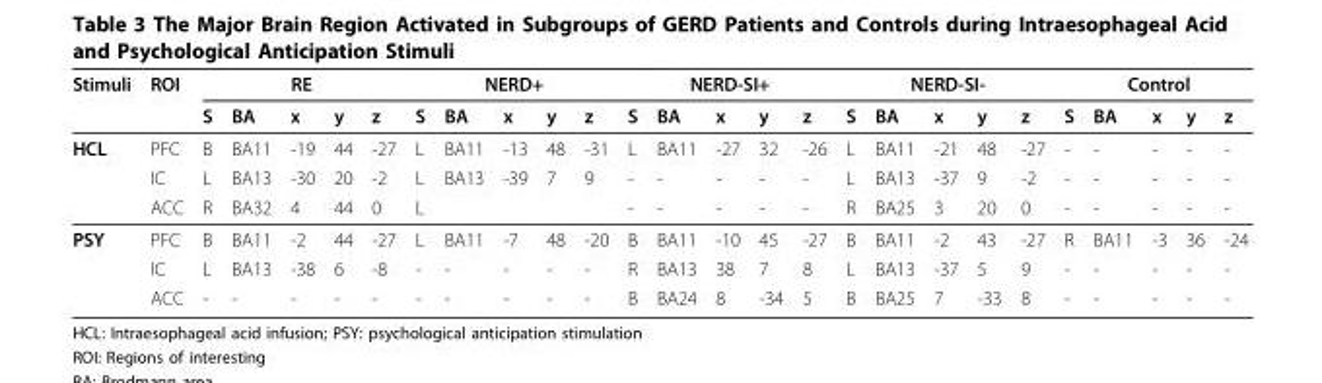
<table><thead><tr><td rowspan="2">Stimuli</td><td rowspan="2">ROI</td><td colspan="5">RE</td><td colspan="5">NERD+</td><td colspan="5">NERD-SI+</td><td colspan="5">NERD-SI-</td><td colspan="5">Control</td></tr><tr><td>S</td><td>BA</td><td>x</td><td>y</td><td>z</td><td>S</td><td>BA</td><td>x</td><td>y</td><td>z</td><td>S</td><td>BA</td><td>x</td><td>y</td><td>z</td><td>S</td><td>BA</td><td>x</td><td>y</td><td>z</td><td>S</td><td>BA</td><td>x</td><td>y</td><td>z</td></tr></thead><tbody><tr><td rowspan="3">HCL</td><td>PFC</td><td>B</td><td>BA11</td><td>-19</td><td>44</td><td>-27</td><td>L</td><td>BA11</td><td>-13</td><td>48</td><td>-31</td><td>L</td><td>BA11</td><td>-27</td><td>32</td><td>-26</td><td>L</td><td>BA11</td><td>-21</td><td>48</td><td>-27</td><td>-</td><td>-</td><td>-</td><td>-</td><td>-</td></tr><tr><td>IC</td><td>L</td><td>BA13</td><td>-30</td><td>20</td><td>-2</td><td>L</td><td>BA13</td><td>-39</td><td>7</td><td>9</td><td>-</td><td>-</td><td>-</td><td>-</td><td>-</td><td>L</td><td>BA13</td><td>-37</td><td>9</td><td>-2</td><td>-</td><td>-</td><td>-</td><td>-</td><td>-</td></tr><tr><td>ACC</td><td>R</td><td>BA32</td><td>4</td><td>44</td><td>0</td><td>L</td><td></td><td></td><td></td><td></td><td>-</td><td>-</td><td>-</td><td>-</td><td>-</td><td>R</td><td>BA25</td><td>3</td><td>20</td><td>0</td><td>-</td><td>-</td><td>-</td><td>-</td><td>-</td></tr><tr><td rowspan="3">PSY</td><td>PFC</td><td>B</td><td>BA11</td><td>-2</td><td>44</td><td>-27</td><td>L</td><td>BA11</td><td>-7</td><td>48</td><td>-20</td><td>B</td><td>BA11</td><td>-10</td><td>45</td><td>-27</td><td>B</td><td>BA11</td><td>-2</td><td>43</td><td>-27</td><td>R</td><td>BA11</td><td>-3</td><td>36</td><td>-24</td></tr><tr><td>IC</td><td>L</td><td>BA13</td><td>-38</td><td>6</td><td>-8</td><td>-</td><td>-</td><td>-</td><td>-</td><td>-</td><td>R</td><td>BA13</td><td>38</td><td>7</td><td>8</td><td>L</td><td>BA13</td><td>-37</td><td>5</td><td>9</td><td>-</td><td>-</td><td>-</td><td>-</td><td>-</td></tr><tr><td>ACC</td><td>-</td><td>-</td><td>-</td><td>-</td><td>-</td><td>-</td><td>-</td><td>-</td><td>-</td><td>-</td><td>B</td><td>BA24</td><td>8</td><td>-34</td><td>5</td><td>B</td><td>BA25</td><td>7</td><td>-33</td><td>8</td><td>-</td><td>-</td><td>-</td><td>-</td><td>-</td></tr></tbody></table>